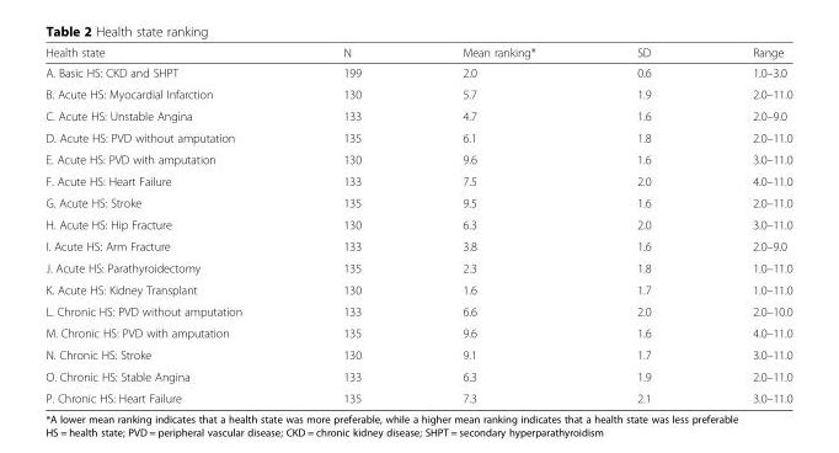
<table><thead><tr><td>Health state</td><td>N</td><td>Mean ranking*</td><td>SD</td><td>Range</td></tr></thead><tbody><tr><td>A. Basic HS: CKD and SHPT</td><td>199</td><td>2.0</td><td>0.6</td><td>1.0–3.0</td></tr><tr><td>B. Acute HS: Myocardial Infarction</td><td>130</td><td>5.7</td><td>1.9</td><td>2.0–11.0</td></tr><tr><td>C. Acute HS: Unstable Angina</td><td>133</td><td>4.7</td><td>1.6</td><td>2.0–9.0</td></tr><tr><td>D. Acute HS: PVD without amputation</td><td>135</td><td>6.1</td><td>1.8</td><td>2.0–11.0</td></tr><tr><td>E. Acute HS: PVD with amputation</td><td>130</td><td>9.6</td><td>1.6</td><td>3.0–11.0</td></tr><tr><td>F. Acute HS: Heart Failure</td><td>133</td><td>7.5</td><td>2.0</td><td>4.0–11.0</td></tr><tr><td>G. Acute HS: Stroke</td><td>135</td><td>9.5</td><td>1.6</td><td>2.0–11.0</td></tr><tr><td>H. Acute HS: Hip Fracture</td><td>130</td><td>6.3</td><td>2.0</td><td>3.0–11.0</td></tr><tr><td>I. Acute HS: Arm Fracture</td><td>133</td><td>3.8</td><td>1.6</td><td>2.0–9.0</td></tr><tr><td>J. Acute HS: Parathyroidectomy</td><td>135</td><td>2.3</td><td>1.8</td><td>1.0–11.0</td></tr><tr><td>K. Acute HS: Kidney Transplant</td><td>130</td><td>1.6</td><td>1.7</td><td>1.0–11.0</td></tr><tr><td>L. Chronic HS: PVD without amputation</td><td>133</td><td>6.6</td><td>2.0</td><td>2.0–10.0</td></tr><tr><td>M. Chronic HS: PVD with amputation</td><td>135</td><td>9.6</td><td>1.6</td><td>4.0–11.0</td></tr><tr><td>N. Chronic HS: Stroke</td><td>130</td><td>9.1</td><td>1.7</td><td>3.0–11.0</td></tr><tr><td>O. Chronic HS: Stable Angina</td><td>133</td><td>6.3</td><td>1.9</td><td>2.0–11.0</td></tr><tr><td>P. Chronic HS: Heart Failure</td><td>135</td><td>7.3</td><td>2.1</td><td>3.0–11.0</td></tr></tbody></table>